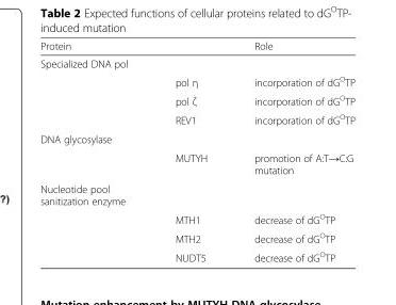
<table><thead><tr><td>Protein</td><td></td><td>Role</td></tr></thead><tbody><tr><td colspan="3">Specialized DNA pol</td></tr><tr><td></td><td>pol η</td><td>incorporation of dG<sup>O</sup>TP</td></tr><tr><td></td><td>pol ζ</td><td>incorporation of dG<sup>O</sup>TP</td></tr><tr><td></td><td>REV1</td><td>incorporation of dG<sup>O</sup>TP</td></tr><tr><td colspan="3">DNA glycosylase</td></tr><tr><td></td><td>MUTYH</td><td>promotion of A:T→C:G mutation</td></tr><tr><td colspan="3">Nucleotide pool sanitization enzyme</td></tr><tr><td></td><td>MTH1</td><td>decrease of dG<sup>O</sup>TP</td></tr><tr><td></td><td>MTH2</td><td>decrease of dG<sup>O</sup>TP</td></tr><tr><td></td><td>NUDT5</td><td>decrease of dG<sup>O</sup>TP</td></tr></tbody></table>